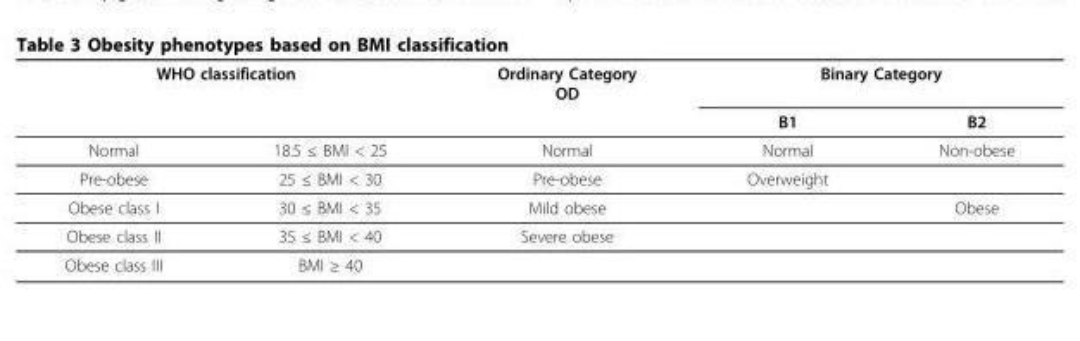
<table><thead><tr><td colspan="2">WHO classification</td><td rowspan="2">Ordinary Category OD</td><td colspan="2">Binary Category</td></tr><tr><td></td><td></td><td>B1</td><td>B2</td></tr></thead><tbody><tr><td>Normal</td><td>18.5 ≤ BMI &lt; 25</td><td>Normal</td><td>Normal</td><td>Non-obese</td></tr><tr><td>Pre-obese</td><td>25 ≤ BMI &lt; 30</td><td>Pre-obese</td><td>Overweight</td><td></td></tr><tr><td>Obese class I</td><td>30 ≤ BMI &lt; 35</td><td>Mild obese</td><td></td><td>Obese</td></tr><tr><td>Obese class II</td><td>35 ≤ BMI &lt; 40</td><td>Severe obese</td><td></td><td></td></tr><tr><td>Obese class III</td><td>BMI ≥ 40</td><td></td><td></td><td></td></tr></tbody></table>